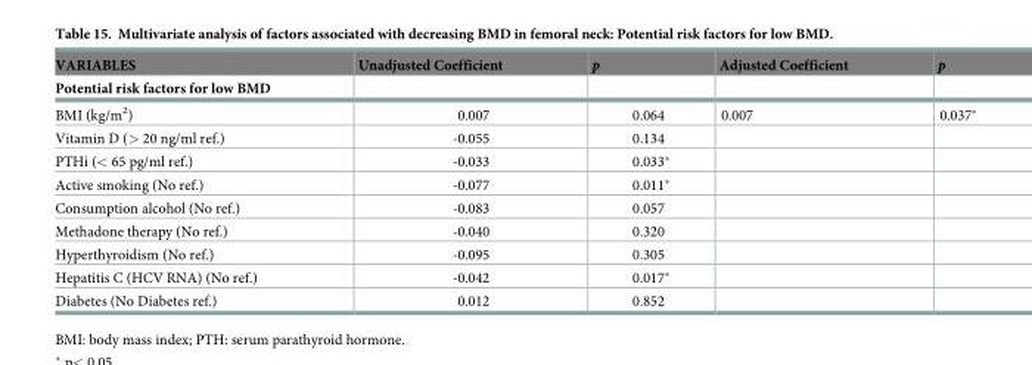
<table><thead><tr><td rowspan="2">VARIABLES Potential risk factors for low BMD</td><td rowspan="2">Unadjusted Coefficient</td><td rowspan="2">p</td><td rowspan="2">Adjusted Coefficient</td><td rowspan="2">p</td></tr><tr></tr></thead><tbody><tr><td>BMI (kg/m<sup>2</sup>)</td><td>0.007</td><td>0.064</td><td>0.007</td><td>0.037*</td></tr><tr><td>Vitamin D (&gt; 20 ng/ml ref.)</td><td>-0.055</td><td>0.134</td><td></td><td></td></tr><tr><td>PTHi (&lt; 65 pg/ml ref.)</td><td>-0.033</td><td>0.033*</td><td></td><td></td></tr><tr><td>Active smoking (No ref.)</td><td>-0.077</td><td>0.011*</td><td></td><td></td></tr><tr><td>Consumption alcohol (No ref.)</td><td>-0.083</td><td>0.057</td><td></td><td></td></tr><tr><td>Methadone therapy (No ref.)</td><td>-0.040</td><td>0.320</td><td></td><td></td></tr><tr><td>Hyperthyroidism (No ref.)</td><td>-0.095</td><td>0.305</td><td></td><td></td></tr><tr><td>Hepatitis C (HCV RNA) (No ref.)</td><td>-0.042</td><td>0.017*</td><td></td><td></td></tr><tr><td>Diabetes (No Diabetes ref.)</td><td>0.012</td><td>0.852</td><td></td><td></td></tr></tbody></table>